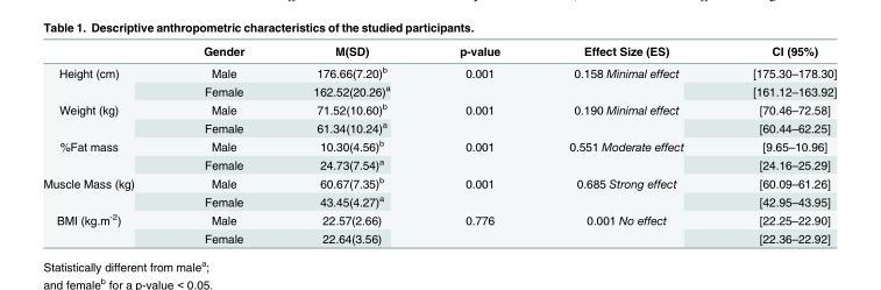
<table><thead><tr><td></td><td>Gender</td><td>M(SD)</td><td>p-value</td><td>Effect Size (ES)</td><td>CI (95%)</td></tr></thead><tbody><tr><td rowspan="2">Height (cm)</td><td>Male</td><td>176.66(7.20)<sup>b</sup></td><td rowspan="2">0.001</td><td rowspan="2">0.158 Minimal effect</td><td>[175.30–178.30]</td></tr><tr><td>Female</td><td>162.52(20.26)<sup>a</sup></td><td>[161.12–163.92]</td></tr><tr><td rowspan="2">Weight (kg)</td><td>Male</td><td>71.52(10.60)<sup>b</sup></td><td rowspan="2">0.001</td><td rowspan="2">0.190 Minimal effect</td><td>[70.46–72.58]</td></tr><tr><td>Female</td><td>61.34(10.24)<sup>a</sup></td><td>[60.44–62.25]</td></tr><tr><td rowspan="2">%Fat mass</td><td>Male</td><td>10.30(4.56)<sup>b</sup></td><td rowspan="2">0.001</td><td rowspan="2">0.551 Moderate effect</td><td>[9.65–10.96]</td></tr><tr><td>Female</td><td>24.73(7.54)<sup>a</sup></td><td>[24.16–25.29]</td></tr><tr><td rowspan="2">Muscle Mass (kg)</td><td>Male</td><td>60.67(7.35)<sup>b</sup></td><td rowspan="2">0.001</td><td rowspan="2">0.685 Strong effect</td><td>[60.09–61.26]</td></tr><tr><td>Female</td><td>43.45(4.27)<sup>a</sup></td><td>[42.95–43.95]</td></tr><tr><td rowspan="2">BMI (kg.m<sup>-2</sup>)</td><td>Male</td><td>22.57(2.66)</td><td rowspan="2">0.776</td><td rowspan="2">0.001 No effect</td><td>[22.25–22.90]</td></tr><tr><td>Female</td><td>22.64(3.56)</td><td>[22.36–22.92]</td></tr></tbody></table>